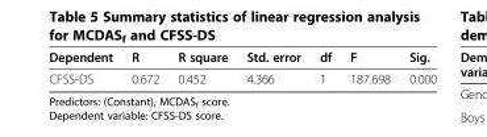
<table><thead><tr><td>Dependent</td><td>R</td><td>R square</td><td>Std. error</td><td>df</td><td>F</td><td>Sig.</td></tr></thead><tbody><tr><td>CFSS-DS</td><td>0.672</td><td>0.452</td><td>4.366</td><td>1</td><td>187.698</td><td>0.000</td></tr></tbody></table>